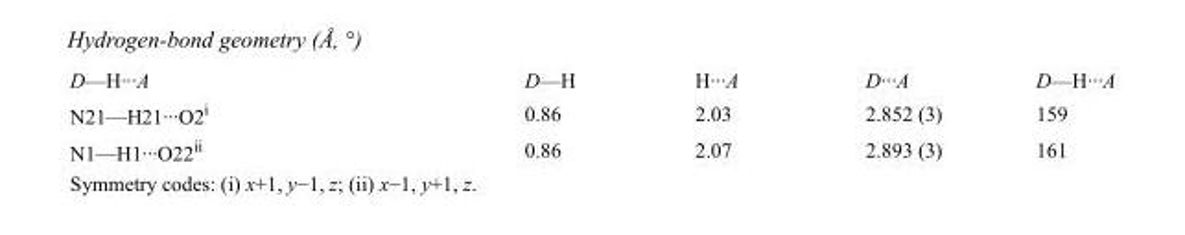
<table><tbody><tr><td>D—H···A</td><td>D—H</td><td>H···A</td><td>D···A</td><td>D—H···A</td></tr><tr><td>N21—H21···O2<sup>i</sup></td><td>0.86</td><td>2.03</td><td>2.852 (3)</td><td>159</td></tr><tr><td>N1—H1···O22<sup>ii</sup></td><td>0.86</td><td>2.07</td><td>2.893 (3)</td><td>161</td></tr></tbody></table>